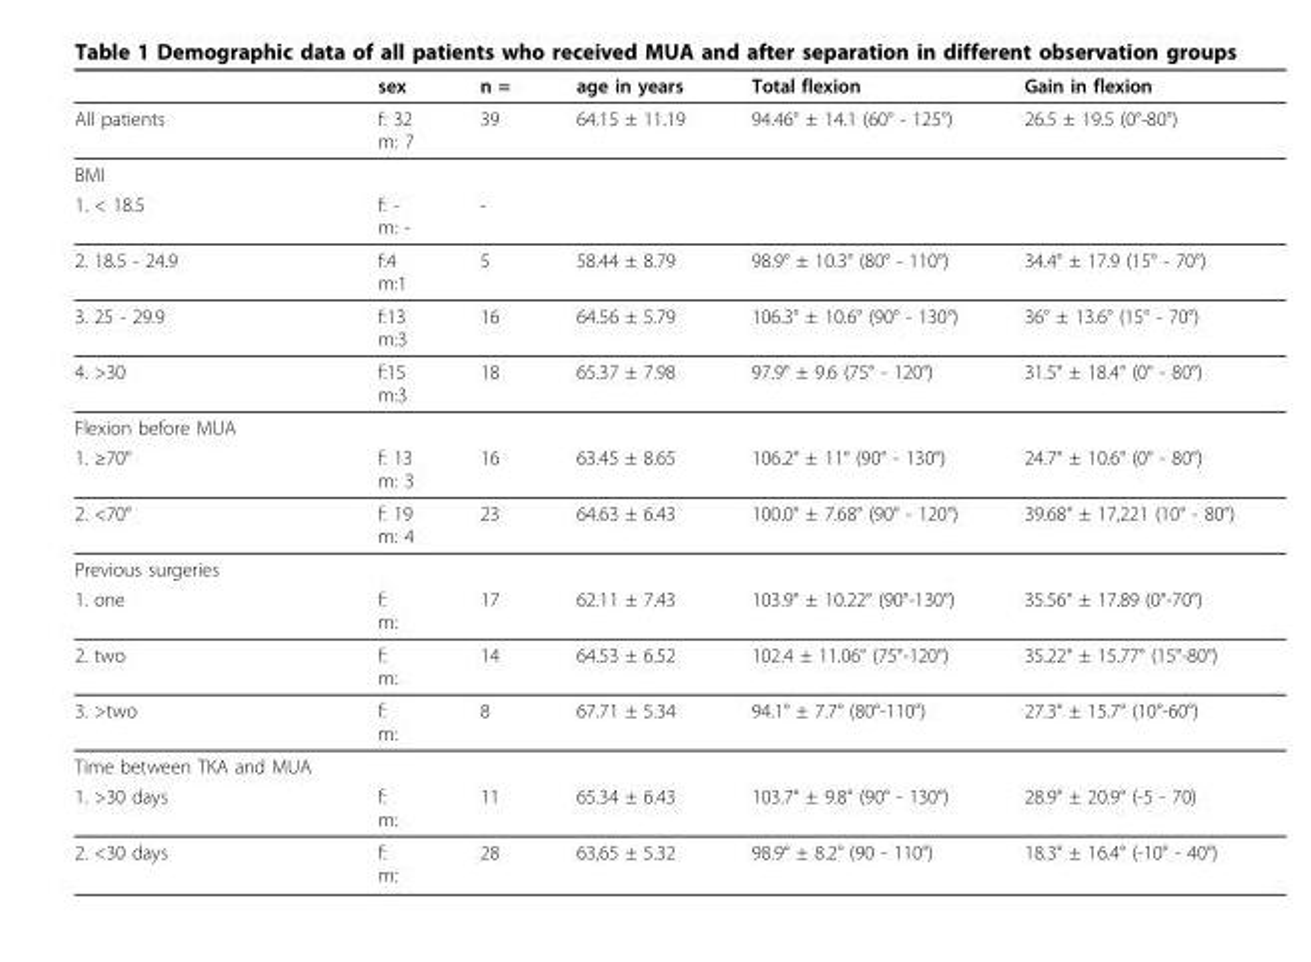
<table><thead><tr><td></td><td>sex</td><td>n =</td><td>age in years</td><td>Total flexion</td><td>Gain in flexion</td></tr></thead><tbody><tr><td>All patients</td><td>f: 32 m: 7</td><td>39</td><td>64.15 ± 11.19</td><td>94.46° ± 14.1 (60° - 125°)</td><td>26.5 ± 19.5 (0°-80°)</td></tr><tr><td colspan="6">BMI</td></tr><tr><td>1. &lt; 18.5</td><td>f: - m: -</td><td>-</td><td></td><td></td><td></td></tr><tr><td>2. 18.5 - 24.9</td><td>f:4 m:1</td><td>5</td><td>58.44 ± 8.79</td><td>98.9° ± 10.3° (80° - 110°)</td><td>34.4° ± 17.9 (15° - 70°)</td></tr><tr><td>3. 25 - 29.9</td><td>f:13 m:3</td><td>16</td><td>64.56 ± 5.79</td><td>106.3° ± 10.6° (90° - 130°)</td><td>36° ± 13.6° (15° - 70°)</td></tr><tr><td>4. &gt;30</td><td>f:15 m:3</td><td>18</td><td>65.37 ± 7.98</td><td>97.9° ± 9.6 (75° - 120°)</td><td>31.5° ± 18.4° (0° - 80°)</td></tr><tr><td colspan="6">Flexion before MUA</td></tr><tr><td>1. ≥70°</td><td>f: 13 m: 3</td><td>16</td><td>63.45 ± 8.65</td><td>106.2° ± 11° (90° - 130°)</td><td>24.7° ± 10.6° (0° - 80°)</td></tr><tr><td>2. &lt;70°</td><td>f: 19 m: 4</td><td>23</td><td>64.63 ± 6.43</td><td>100.0° ± 7.68° (90° - 120°)</td><td>39.68° ± 17,221 (10° - 80°)</td></tr><tr><td colspan="6">Previous surgeries</td></tr><tr><td>1. one</td><td>f: m:</td><td>17</td><td>62.11 ± 7.43</td><td>103.9° ± 10.22° (90°-130°)</td><td>35.56° ± 17.89 (0°-70°)</td></tr><tr><td>2. two</td><td>f: m:</td><td>14</td><td>64.53 ± 6.52</td><td>102.4 ± 11.06° (75°-120°)</td><td>35.22° ± 15.77° (15°-80°)</td></tr><tr><td>3. &gt;two</td><td>f: m:</td><td>8</td><td>67.71 ± 5.34</td><td>94.1° ± 7.7° (80°-110°)</td><td>27.3° ± 15.7° (10°-60°)</td></tr><tr><td colspan="6">Time between TKA and MUA</td></tr><tr><td>1. &gt;30 days</td><td>f: m:</td><td>11</td><td>65.34 ± 6.43</td><td>103.7° ± 9.8° (90° - 130°)</td><td>28.9° ± 20.9° (-5 - 70)</td></tr><tr><td>2. &lt;30 days</td><td>f: m:</td><td>28</td><td>63,65 ± 5.32</td><td>98.9° ± 8.2° (90 - 110°)</td><td>18.3° ± 16.4° (-10° - 40°)</td></tr></tbody></table>